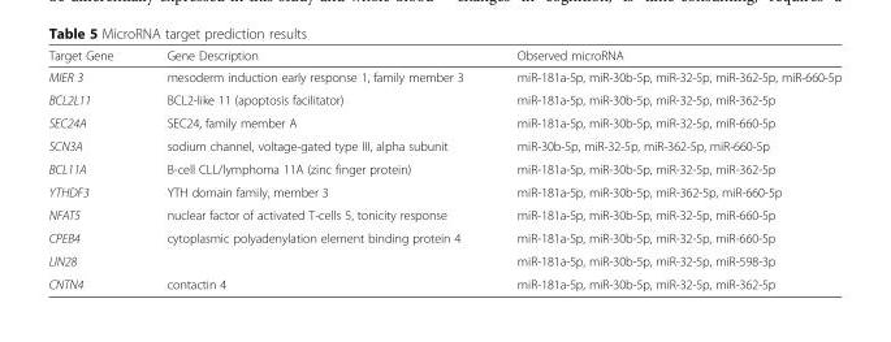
<table><thead><tr><td>Target Gene</td><td>Gene Description</td><td>Observed microRNA</td></tr></thead><tbody><tr><td>MIER 3</td><td>mesoderm induction early response 1, family member 3</td><td>miR-181a-5p, miR-30b-5p, miR-32-5p, miR-362-5p, miR-660-5p</td></tr><tr><td>BCL2L11</td><td>BCL2-like 11 (apoptosis facilitator)</td><td>miR-181a-5p, miR-30b-5p, miR-32-5p, miR-362-5p</td></tr><tr><td>SEC24A</td><td>SEC24, family member A</td><td>miR-181a-5p, miR-30b-5p, miR-32-5p, miR-660-5p</td></tr><tr><td>SCN3A</td><td>sodium channel, voltage-gated type III, alpha subunit</td><td>miR-30b-5p, miR-32-5p, miR-362-5p, miR-660-5p</td></tr><tr><td>BCL11A</td><td>B-cell CLL/lymphoma 11A (zinc finger protein)</td><td>miR-181a-5p, miR-30b-5p, miR-32-5p, miR-362-5p</td></tr><tr><td>YTHDF3</td><td>YTH domain family, member 3</td><td>miR-181a-5p, miR-30b-5p, miR-362-5p, miR-660-5p</td></tr><tr><td>NFAT5</td><td>nuclear factor of activated T-cells 5, tonicity response</td><td>miR-181a-5p, miR-30b-5p, miR-32-5p, miR-660-5p</td></tr><tr><td>CPEB4</td><td>cytoplasmic polyadenylation element binding protein 4</td><td>miR-181a-5p, miR-30b-5p, miR-32-5p, miR-660-5p</td></tr><tr><td>LIN28</td><td></td><td>miR-181a-5p, miR-30b-5p, miR-32-5p, miR-598-3p</td></tr><tr><td>CNTN4</td><td>contactin 4</td><td>miR-181a-5p, miR-30b-5p, miR-32-5p, miR-362-5p</td></tr></tbody></table>